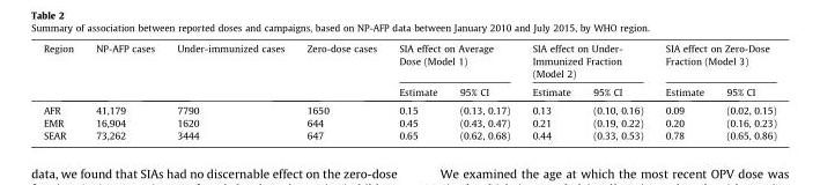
<table><thead><tr><td rowspan="2">Region</td><td rowspan="2">NP-AFP cases</td><td rowspan="2">Under-immunized cases</td><td rowspan="2">Zero-dose cases</td><td colspan="2">SIA effect on Average Dose (Model 1)</td><td colspan="2">SIA effect on Under- Immunized Fraction (Model 2)</td><td colspan="2">SIA effect on Zero-Dose Fraction (Model 3)</td></tr><tr><td>Estimate</td><td>95% CI</td><td>Estimate</td><td>95% CI</td><td>Estimate</td><td>95% CI</td></tr></thead><tbody><tr><td>AFR</td><td>41,179</td><td>7790</td><td>1650</td><td>0.15</td><td>(0.13, 0.17)</td><td>0.13</td><td>(0.10, 0.16)</td><td>0.09</td><td>(0.02, 0.15)</td></tr><tr><td>EMR</td><td>16,904</td><td>1620</td><td>644</td><td>0.45</td><td>(0.43, 0.47)</td><td>0.21</td><td>(0.19, 0.22)</td><td>0.20</td><td>(0.16, 0.23)</td></tr><tr><td>SEAR</td><td>73,262</td><td>3444</td><td>647</td><td>0.65</td><td>(0.62, 0.68)</td><td>0.44</td><td>(0.33, 0.53)</td><td>0.78</td><td>(0.65, 0.86)</td></tr></tbody></table>